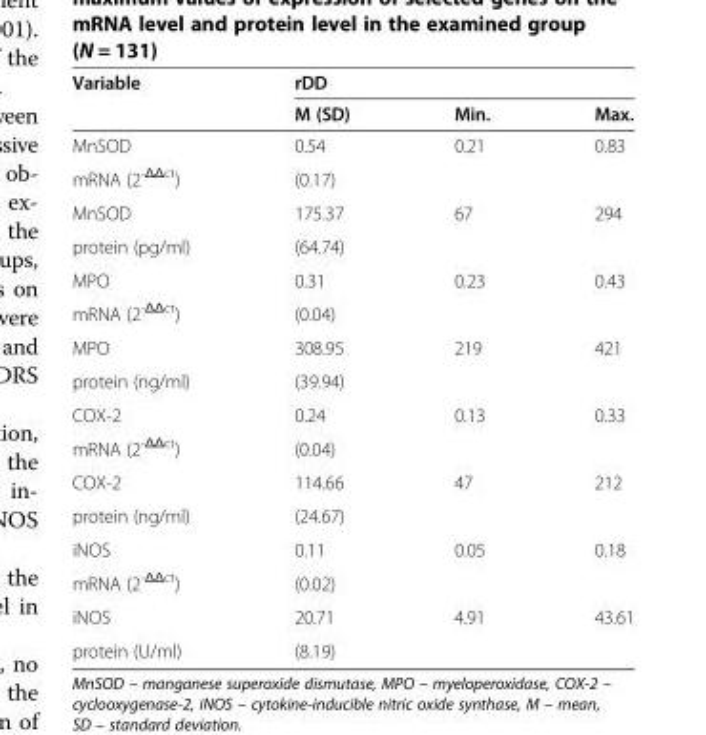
<table><thead><tr><td rowspan="2">Variable</td><td colspan="3">rDD</td></tr><tr><td>M (SD)</td><td>Min.</td><td>Max.</td></tr></thead><tbody><tr><td>MnSOD</td><td>0.54</td><td>0.21</td><td>0.83</td></tr><tr><td>mRNA (2<sup>-ΔΔct</sup>)</td><td>(0.17)</td><td></td><td></td></tr><tr><td>MnSOD</td><td>175.37</td><td>67</td><td>294</td></tr><tr><td>protein (pg/ml)</td><td>(64.74)</td><td></td><td></td></tr><tr><td>MPO</td><td>0.31</td><td>0.23</td><td>0.43</td></tr><tr><td>mRNA (2<sup>-ΔΔct</sup>)</td><td>(0.04)</td><td></td><td></td></tr><tr><td>MPO</td><td>308.95</td><td>219</td><td>421</td></tr><tr><td>protein (ng/ml)</td><td>(39.94)</td><td></td><td></td></tr><tr><td>COX-2</td><td>0.24</td><td>0.13</td><td>0.33</td></tr><tr><td>mRNA (2<sup>-ΔΔct</sup>)</td><td>(0.04)</td><td></td><td></td></tr><tr><td>COX-2</td><td>114.66</td><td>47</td><td>212</td></tr><tr><td>protein (ng/ml)</td><td>(24.67)</td><td></td><td></td></tr><tr><td>iNOS</td><td>0.11</td><td>0.05</td><td>0.18</td></tr><tr><td>mRNA (2<sup>-ΔΔct</sup>)</td><td>(0.02)</td><td></td><td></td></tr><tr><td>iNOS</td><td>20.71</td><td>4.91</td><td>43.61</td></tr><tr><td>protein (U/ml)</td><td>(8.19)</td><td></td><td></td></tr></tbody></table>